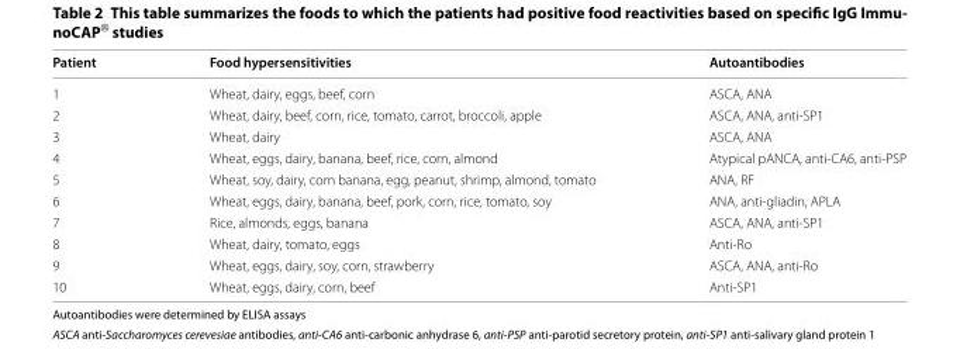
<table><thead><tr><td>Patient</td><td>Food hypersensitivities</td><td>Autoantibodies</td></tr></thead><tbody><tr><td>1</td><td>Wheat, dairy, eggs, beef, corn</td><td>ASCA, ANA</td></tr><tr><td>2</td><td>Wheat, dairy, beef, corn, rice, tomato, carrot, broccoli, apple</td><td>ASCA, ANA, anti‑SP1</td></tr><tr><td>3</td><td>Wheat, dairy</td><td>ASCA, ANA</td></tr><tr><td>4</td><td>Wheat, eggs, dairy, banana, beef, rice, corn, almond</td><td>Atypical pANCA, anti‑CA6, anti‑PSP</td></tr><tr><td>5</td><td>Wheat, soy, dairy, corn banana, egg, peanut, shrimp, almond, tomato</td><td>ANA, RF</td></tr><tr><td>6</td><td>Wheat, eggs, dairy, banana, beef, pork, corn, rice, tomato, soy</td><td>ANA, anti‑gliadin, APLA</td></tr><tr><td>7</td><td>Rice, almonds, eggs, banana</td><td>ASCA, ANA, anti‑SP1</td></tr><tr><td>8</td><td>Wheat, dairy, tomato, eggs</td><td>Anti‑Ro</td></tr><tr><td>9</td><td>Wheat, eggs, dairy, soy, corn, strawberry</td><td>ASCA, ANA, anti‑Ro</td></tr><tr><td>10</td><td>Wheat, eggs, dairy, corn, beef</td><td>Anti‑SP1</td></tr></tbody></table>